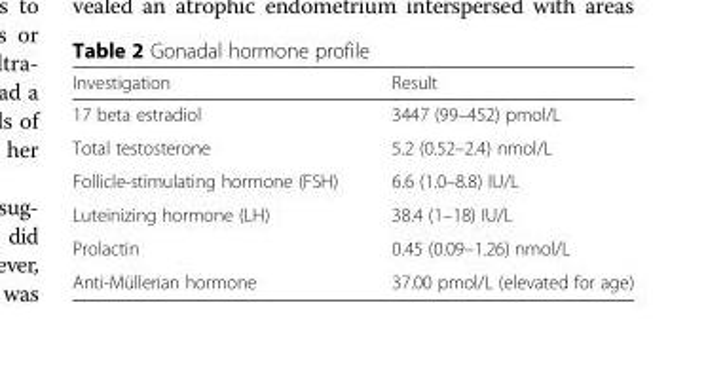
<table><thead><tr><td>Investigation</td><td>Result</td></tr></thead><tbody><tr><td>17 beta estradiol</td><td>3447 (99–452) pmol/L</td></tr><tr><td>Total testosterone</td><td>5.2 (0.52–2.4) nmol/L</td></tr><tr><td>Follicle-stimulating hormone (FSH)</td><td>6.6 (1.0–8.8) IU/L</td></tr><tr><td>Luteinizing hormone (LH)</td><td>38.4 (1–18) IU/L</td></tr><tr><td>Prolactin</td><td>0.45 (0.09–1.26) nmol/L</td></tr><tr><td>Anti-Müllerian hormone</td><td>37.00 pmol/L (elevated for age)</td></tr></tbody></table>